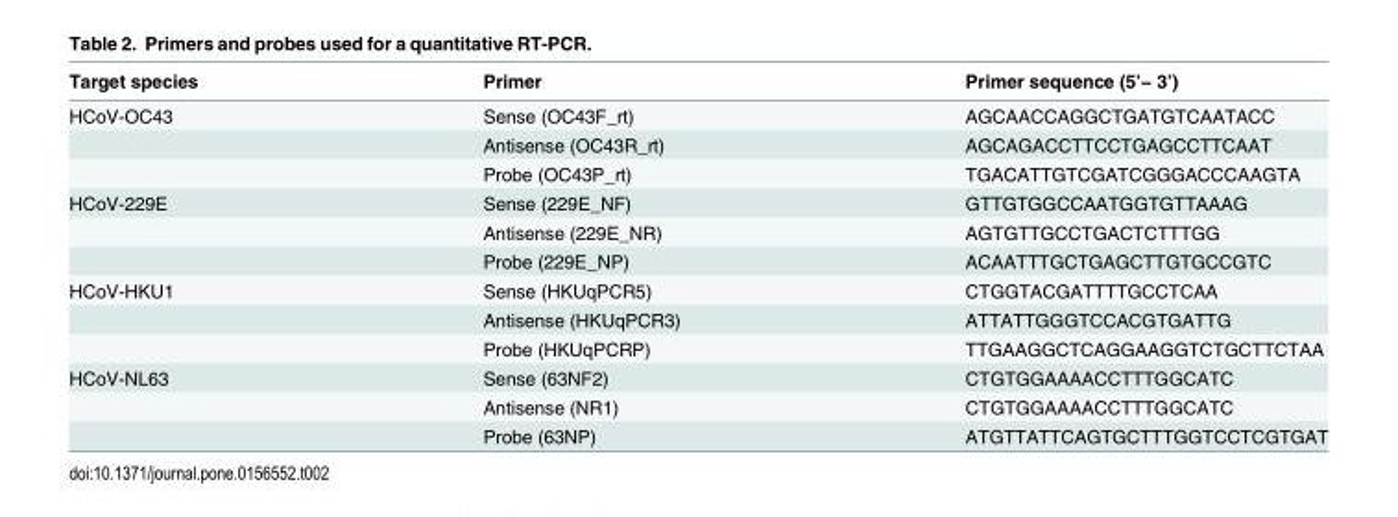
<table><thead><tr><td>Target species</td><td>Primer</td><td>Primer sequence (5’− 3’)</td></tr></thead><tbody><tr><td rowspan="3">HCoV-OC43</td><td>Sense (OC43F_rt)</td><td>AGCAACCAGGCTGATGTCAATACC</td></tr><tr><td>Antisense (OC43R_rt)</td><td>AGCAGACCTTCCTGAGCCTTCAAT</td></tr><tr><td>Probe (OC43P_rt)</td><td>TGACATTGTCGATCGGGACCCAAGTA</td></tr><tr><td rowspan="3">HCoV-229E</td><td>Sense (229E_NF)</td><td>GTTGTGGCCAATGGTGTTAAAG</td></tr><tr><td>Antisense (229E_NR)</td><td>AGTGTTGCCTGACTCTTTGG</td></tr><tr><td>Probe (229E_NP)</td><td>ACAATTTGCTGAGCTTGTGCCGTC</td></tr><tr><td rowspan="3">HCoV-HKU1</td><td>Sense (HKUqPCR5)</td><td>CTGGTACGATTTTGCCTCAA</td></tr><tr><td>Antisense (HKUqPCR3)</td><td>ATTATTGGGTCCACGTGATTG</td></tr><tr><td>Probe (HKUqPCRP)</td><td>TTGAAGGCTCAGGAAGGTCTGCTTCTAA</td></tr><tr><td rowspan="3">HCoV-NL63</td><td>Sense (63NF2)</td><td>CTGTGGAAAACCTTTGGCATC</td></tr><tr><td>Antisense (NR1)</td><td>CTGTGGAAAACCTTTGGCATC</td></tr><tr><td>Probe (63NP)</td><td>ATGTTATTCAGTGCTTTGGTCCTCGTGAT</td></tr></tbody></table>